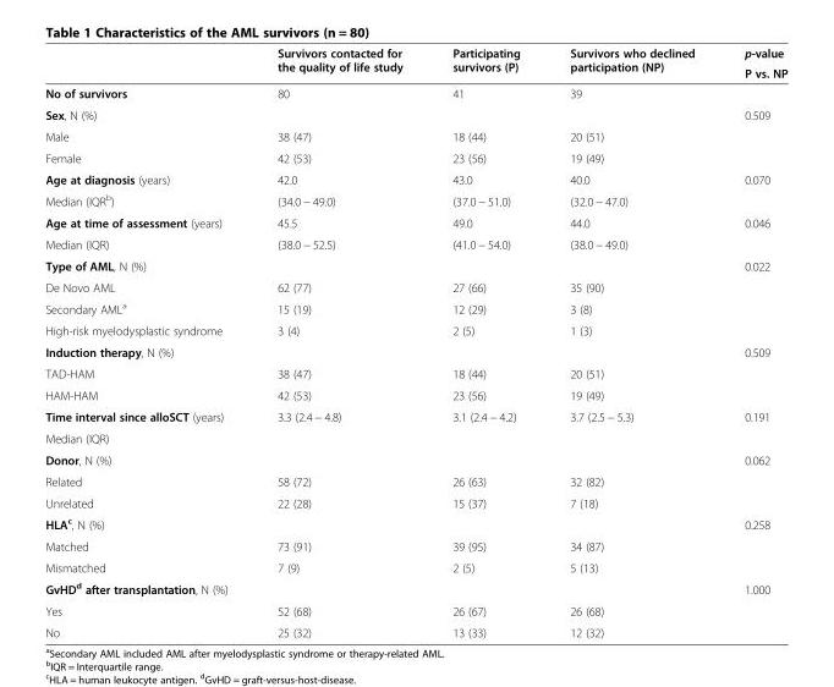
<table><thead><tr><td rowspan="2"></td><td rowspan="2">Survivors contacted for the quality of life study</td><td rowspan="2">Participating survivors (P)</td><td rowspan="2">Survivors who declined participation (NP)</td><td rowspan="2">p-value P vs. NP</td></tr><tr></tr></thead><tbody><tr><td>No of survivors</td><td>80</td><td>41</td><td>39</td><td></td></tr><tr><td colspan="4">Sex, N (%)</td><td rowspan="3">0.509</td></tr><tr><td>Male</td><td>38 (47)</td><td>18 (44)</td><td>20 (51)</td></tr><tr><td>Female</td><td>42 (53)</td><td>23 (56)</td><td>19 (49)</td></tr><tr><td>Age at diagnosis (years)</td><td>42.0</td><td>43.0</td><td>40.0</td><td rowspan="2">0.070</td></tr><tr><td>Median (IQR<sup>b</sup>)</td><td>(34.0 − 49.0)</td><td>(37.0 − 51.0)</td><td>(32.0 − 47.0)</td></tr><tr><td>Age at time of assessment (years)</td><td>45.5</td><td>49.0</td><td>44.0</td><td rowspan="2">0.046</td></tr><tr><td>Median (IQR)</td><td>(38.0 − 52.5)</td><td>(41.0 − 54.0)</td><td>(38.0 − 49.0)</td></tr><tr><td colspan="4">Type of AML, N (%)</td><td rowspan="4">0.022</td></tr><tr><td>De Novo AML</td><td>62 (77)</td><td>27 (66)</td><td>35 (90)</td></tr><tr><td>Secondary AML<sup>a</sup></td><td>15 (19)</td><td>12 (29)</td><td>3 (8)</td></tr><tr><td>High-risk myelodysplastic syndrome</td><td>3 (4)</td><td>2 (5)</td><td>1 (3)</td></tr><tr><td colspan="4">Induction therapy, N (%)</td><td rowspan="3">0.509</td></tr><tr><td>TAD-HAM</td><td>38 (47)</td><td>18 (44)</td><td>20 (51)</td></tr><tr><td>HAM-HAM</td><td>42 (53)</td><td>23 (56)</td><td>19 (49)</td></tr><tr><td>Time interval since alloSCT (years)</td><td rowspan="2">3.3 (2.4 − 4.8)</td><td rowspan="2">3.1 (2.4 − 4.2)</td><td rowspan="2">3.7 (2.5 − 5.3)</td><td rowspan="2">0.191</td></tr><tr><td>Median (IQR)</td></tr><tr><td colspan="4">Donor, N (%)</td><td rowspan="3">0.062</td></tr><tr><td>Related</td><td>58 (72)</td><td>26 (63)</td><td>32 (82)</td></tr><tr><td>Unrelated</td><td>22 (28)</td><td>15 (37)</td><td>7 (18)</td></tr><tr><td colspan="4">HLA<sup>c</sup>, N (%)</td><td rowspan="3">0.258</td></tr><tr><td>Matched</td><td>73 (91)</td><td>39 (95)</td><td>34 (87)</td></tr><tr><td>Mismatched</td><td>7 (9)</td><td>2 (5)</td><td>5 (13)</td></tr><tr><td colspan="4">GvHD<sup>d</sup> after transplantation, N (%)</td><td rowspan="3">1.000</td></tr><tr><td>Yes</td><td>52 (68)</td><td>26 (67)</td><td>26 (68)</td></tr><tr><td>No</td><td>25 (32)</td><td>13 (33)</td><td>12 (32)</td></tr></tbody></table>